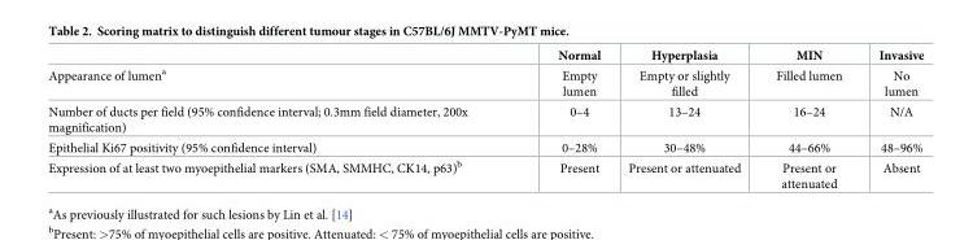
<table><thead><tr><td></td><td>Normal</td><td>Hyperplasia</td><td>MIN</td><td>Invasive</td></tr></thead><tbody><tr><td>Appearance of lumen<sup>a</sup></td><td>Empty lumen</td><td>Empty or slightly filled</td><td>Filled lumen</td><td>No lumen</td></tr><tr><td>Number of ducts per field (95% confidence interval; 0.3mm field diameter, 200x magnification)</td><td>0–4</td><td>13–24</td><td>16–24</td><td>N/A</td></tr><tr><td>Epithelial Ki67 positivity (95% confidence interval)</td><td>0–28%</td><td>30–48%</td><td>44–66%</td><td>48–96%</td></tr><tr><td>Expression of at least two myoepithelial markers (SMA, SMMHC, CK14, p63)<sup>b</sup></td><td>Present</td><td>Present or attenuated</td><td>Present or attenuated</td><td>Absent</td></tr></tbody></table>